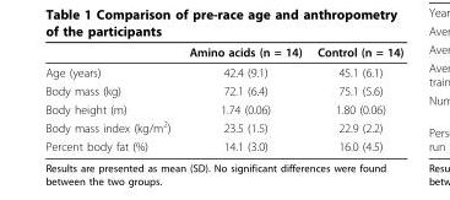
<table><thead><tr><td></td><td>Amino acids (n = 14)</td><td>Control (n = 14)</td></tr></thead><tbody><tr><td>Age (years)</td><td>42.4 (9.1)</td><td>45.1 (6.1)</td></tr><tr><td>Body mass (kg)</td><td>72.1 (6.4)</td><td>75.1 (5.6)</td></tr><tr><td>Body height (m)</td><td>1.74 (0.06)</td><td>1.80 (0.06)</td></tr><tr><td>Body mass index (kg/m<sup>2</sup>)</td><td>23.5 (1.5)</td><td>22.9 (2.2)</td></tr><tr><td>Percent body fat (%)</td><td>14.1 (3.0)</td><td>16.0 (4.5)</td></tr></tbody></table>